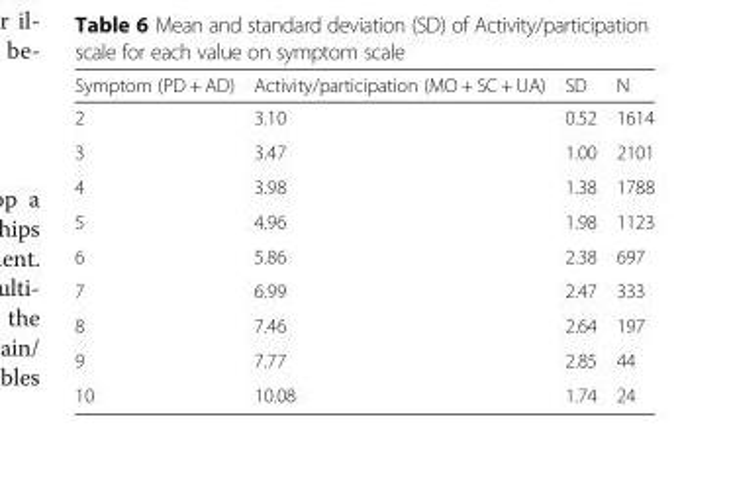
<table><thead><tr><td>Symptom (PD + AD)</td><td>Activity/participation (MO + SC + UA)</td><td>SD</td><td>N</td></tr></thead><tbody><tr><td>2</td><td>3.10</td><td>0.52</td><td>1614</td></tr><tr><td>3</td><td>3.47</td><td>1.00</td><td>2101</td></tr><tr><td>4</td><td>3.98</td><td>1.38</td><td>1788</td></tr><tr><td>5</td><td>4.96</td><td>1.98</td><td>1123</td></tr><tr><td>6</td><td>5.86</td><td>2.38</td><td>697</td></tr><tr><td>7</td><td>6.99</td><td>2.47</td><td>333</td></tr><tr><td>8</td><td>7.46</td><td>2.64</td><td>197</td></tr><tr><td>9</td><td>7.77</td><td>2.85</td><td>44</td></tr><tr><td>10</td><td>10.08</td><td>1.74</td><td>24</td></tr></tbody></table>